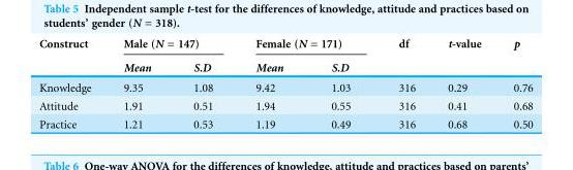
<table><thead><tr><td rowspan="2">Construct</td><td colspan="2">Male (N = 147)</td><td colspan="2">Female (N = 171)</td><td rowspan="2">df</td><td rowspan="2">t-value</td><td rowspan="2">p</td></tr><tr><td>Mean</td><td>S.D</td><td>Mean</td><td>S.D</td></tr></thead><tbody><tr><td>Knowledge</td><td>9.35</td><td>1.08</td><td>9.42</td><td>1.03</td><td>316</td><td>0.29</td><td>0.76</td></tr><tr><td>Attitude</td><td>1.91</td><td>0.51</td><td>1.94</td><td>0.55</td><td>316</td><td>0.41</td><td>0.68</td></tr><tr><td>Practice</td><td>1.21</td><td>0.53</td><td>1.19</td><td>0.49</td><td>316</td><td>0.68</td><td>0.50</td></tr></tbody></table>